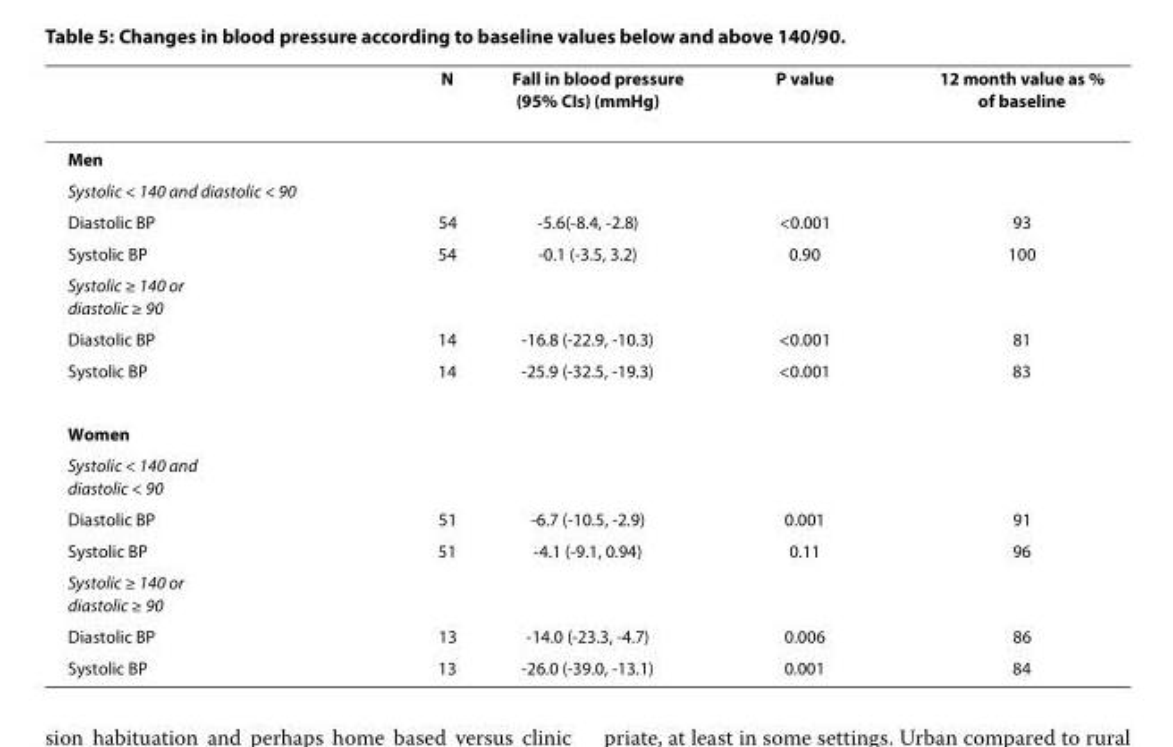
<table><thead><tr><td></td><td>N</td><td>Fall in blood pressure (95% CIs) (mmHg)</td><td>P value</td><td>12 month value as % of baseline</td></tr></thead><tbody><tr><td colspan="5">Men</td></tr><tr><td colspan="5">Systolic &lt; 140 and diastolic &lt; 90</td></tr><tr><td>Diastolic BP</td><td>54</td><td>-5.6(-8.4, -2.8)</td><td>&lt;0.001</td><td>93</td></tr><tr><td>Systolic BP</td><td>54</td><td>-0.1 (-3.5, 3.2)</td><td>0.90</td><td>100</td></tr><tr><td colspan="5">Systolic ≥ 140 or diastolic ≥ 90</td></tr><tr><td>Diastolic BP</td><td>14</td><td>-16.8 (-22.9, -10.3)</td><td>&lt;0.001</td><td>81</td></tr><tr><td>Systolic BP</td><td>14</td><td>-25.9 (-32.5, -19.3)</td><td>&lt;0.001</td><td>83</td></tr><tr><td colspan="5">Women</td></tr><tr><td colspan="5">Systolic &lt; 140 and diastolic &lt; 90</td></tr><tr><td>Diastolic BP</td><td>51</td><td>-6.7 (-10.5, -2.9)</td><td>0.001</td><td>91</td></tr><tr><td>Systolic BP</td><td>51</td><td>-4.1 (-9.1, 0.94)</td><td>0.11</td><td>96</td></tr><tr><td colspan="5">Systolic ≥ 140 or diastolic ≥ 90</td></tr><tr><td>Diastolic BP</td><td>13</td><td>-14.0 (-23.3, -4.7)</td><td>0.006</td><td>86</td></tr><tr><td>Systolic BP</td><td>13</td><td>-26.0 (-39.0, -13.1)</td><td>0.001</td><td>84</td></tr></tbody></table>